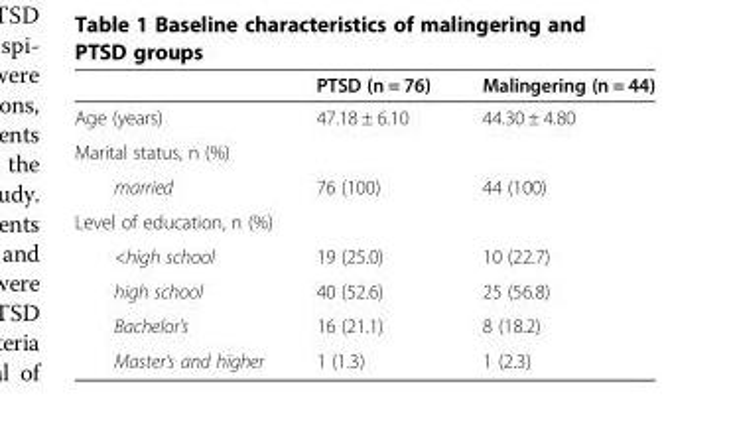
<table><thead><tr><td></td><td>PTSD (n = 76)</td><td>Malingering (n = 44)</td></tr></thead><tbody><tr><td>Age (years)</td><td>47.18 ± 6.10</td><td>44.30 ± 4.80</td></tr><tr><td colspan="3">Marital status, n (%)</td></tr><tr><td>married</td><td>76 (100)</td><td>44 (100)</td></tr><tr><td colspan="3">Level of education, n (%)</td></tr><tr><td>&lt;high school</td><td>19 (25.0)</td><td>10 (22.7)</td></tr><tr><td>high school</td><td>40 (52.6)</td><td>25 (56.8)</td></tr><tr><td>Bachelor’s</td><td>16 (21.1)</td><td>8 (18.2)</td></tr><tr><td>Master’s and higher</td><td>1 (1.3)</td><td>1 (2.3)</td></tr></tbody></table>